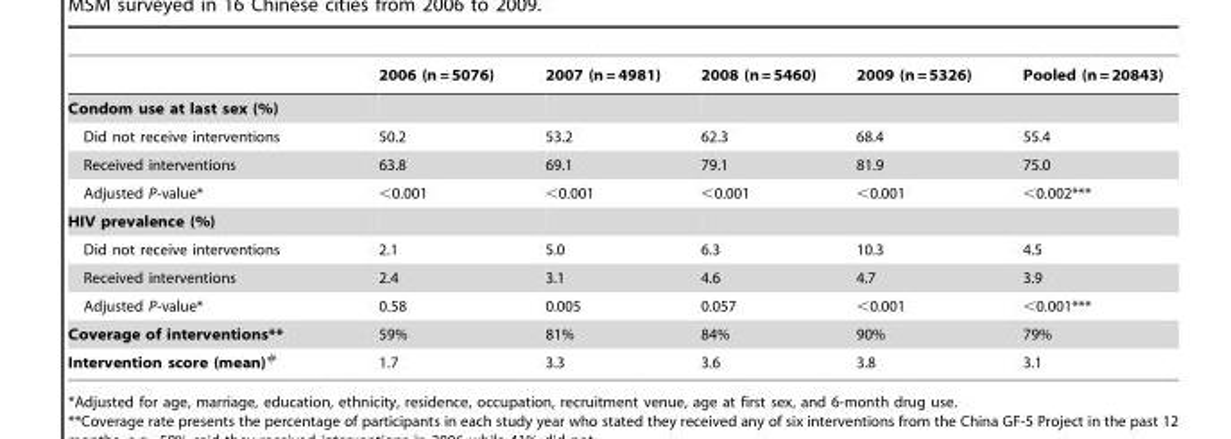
<table><thead><tr><td></td><td>2006 (n = 5076)</td><td>2007 (n = 4981)</td><td>2008 (n = 5460)</td><td>2009 (n = 5326)</td><td>Pooled (n = 20843)</td></tr></thead><tbody><tr><td colspan="6">Condom use at last sex (%)</td></tr><tr><td>Did not receive interventions</td><td>50.2</td><td>53.2</td><td>62.3</td><td>68.4</td><td>55.4</td></tr><tr><td>Received interventions</td><td>63.8</td><td>69.1</td><td>79.1</td><td>81.9</td><td>75.0</td></tr><tr><td>Adjusted P-value*</td><td>&lt;0.001</td><td>&lt;0.001</td><td>&lt;0.001</td><td>&lt;0.001</td><td>&lt;0.002***</td></tr><tr><td colspan="6">HIV prevalence (%)</td></tr><tr><td>Did not receive interventions</td><td>2.1</td><td>5.0</td><td>6.3</td><td>10.3</td><td>4.5</td></tr><tr><td>Received interventions</td><td>2.4</td><td>3.1</td><td>4.6</td><td>4.7</td><td>3.9</td></tr><tr><td>Adjusted P-value*</td><td>0.58</td><td>0.005</td><td>0.057</td><td>&lt;0.001</td><td>&lt;0.001***</td></tr><tr><td>Coverage of interventions**</td><td>59%</td><td>81%</td><td>84%</td><td>90%</td><td>79%</td></tr><tr><td>Intervention score (mean)#</td><td>1.7</td><td>3.3</td><td>3.6</td><td>3.8</td><td>3.1</td></tr></tbody></table>